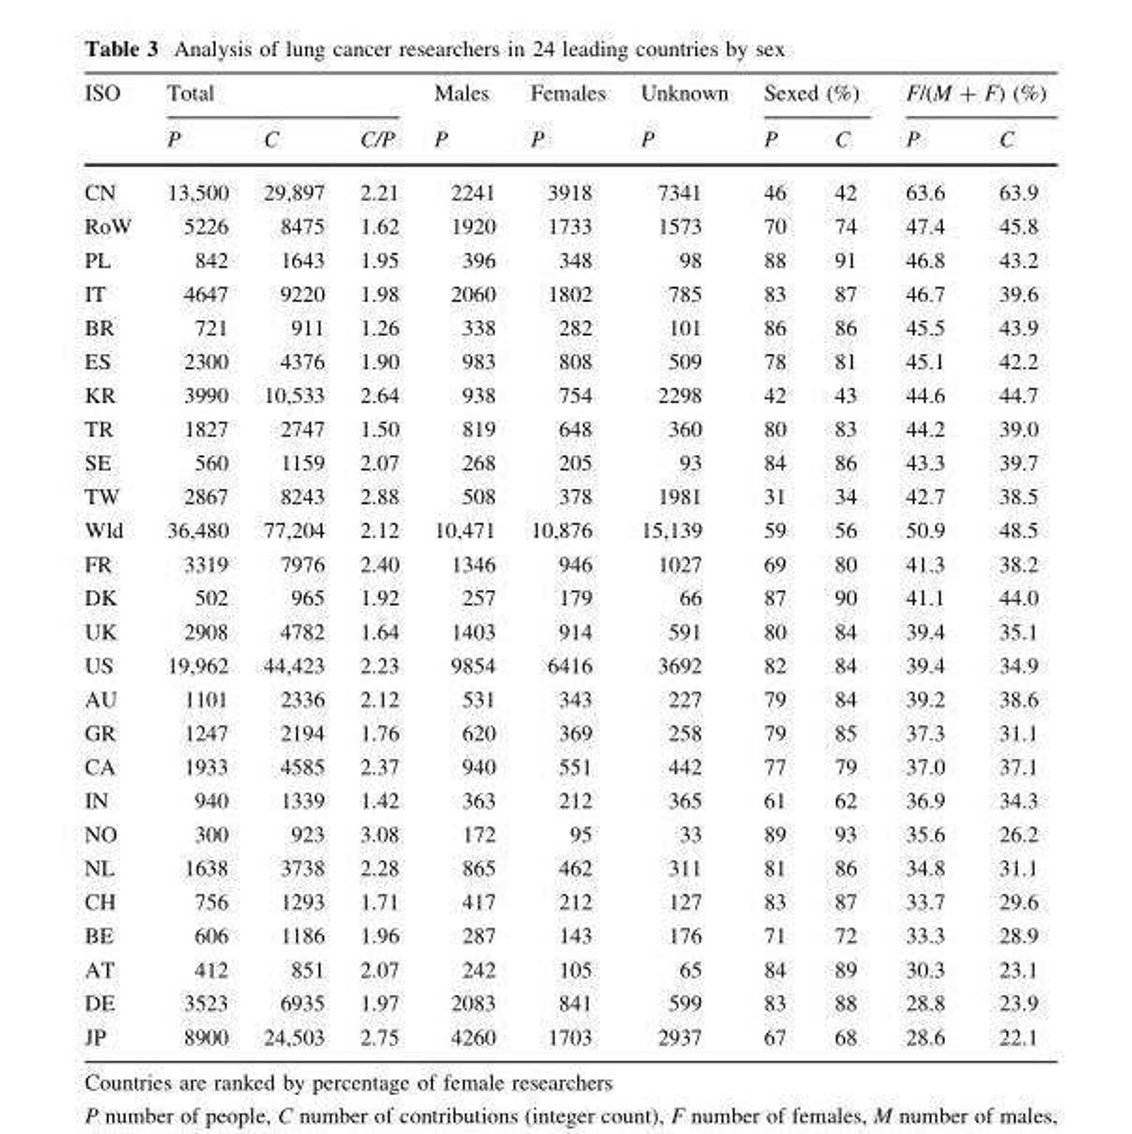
<table><thead><tr><td rowspan="2">ISO</td><td colspan="3">Total</td><td rowspan="2">Males P</td><td rowspan="2">Females P</td><td rowspan="2">Unknown P</td><td colspan="2">Sexed (%)</td><td colspan="2">F/(M + F) (%)</td></tr><tr><td>P</td><td>C</td><td>C/P</td><td>P</td><td>C</td><td>P</td><td>C</td></tr></thead><tbody><tr><td>CN</td><td>13,500</td><td>29,897</td><td>2.21</td><td>2241</td><td>3918</td><td>7341</td><td>46</td><td>42</td><td>63.6</td><td>63.9</td></tr><tr><td>RoW</td><td>5226</td><td>8475</td><td>1.62</td><td>1920</td><td>1733</td><td>1573</td><td>70</td><td>74</td><td>47.4</td><td>45.8</td></tr><tr><td>PL</td><td>842</td><td>1643</td><td>1.95</td><td>396</td><td>348</td><td>98</td><td>88</td><td>91</td><td>46.8</td><td>43.2</td></tr><tr><td>IT</td><td>4647</td><td>9220</td><td>1.98</td><td>2060</td><td>1802</td><td>785</td><td>83</td><td>87</td><td>46.7</td><td>39.6</td></tr><tr><td>BR</td><td>721</td><td>911</td><td>1.26</td><td>338</td><td>282</td><td>101</td><td>86</td><td>86</td><td>45.5</td><td>43.9</td></tr><tr><td>ES</td><td>2300</td><td>4376</td><td>1.90</td><td>983</td><td>808</td><td>509</td><td>78</td><td>81</td><td>45.1</td><td>42.2</td></tr><tr><td>KR</td><td>3990</td><td>10,533</td><td>2.64</td><td>938</td><td>754</td><td>2298</td><td>42</td><td>43</td><td>44.6</td><td>44.7</td></tr><tr><td>TR</td><td>1827</td><td>2747</td><td>1.50</td><td>819</td><td>648</td><td>360</td><td>80</td><td>83</td><td>44.2</td><td>39.0</td></tr><tr><td>SE</td><td>560</td><td>1159</td><td>2.07</td><td>268</td><td>205</td><td>93</td><td>84</td><td>86</td><td>43.3</td><td>39.7</td></tr><tr><td>TW</td><td>2867</td><td>8243</td><td>2.88</td><td>508</td><td>378</td><td>1981</td><td>31</td><td>34</td><td>42.7</td><td>38.5</td></tr><tr><td>Wld</td><td>36,480</td><td>77,204</td><td>2.12</td><td>10,471</td><td>10,876</td><td>15,139</td><td>59</td><td>56</td><td>50.9</td><td>48.5</td></tr><tr><td>FR</td><td>3319</td><td>7976</td><td>2.40</td><td>1346</td><td>946</td><td>1027</td><td>69</td><td>80</td><td>41.3</td><td>38.2</td></tr><tr><td>DK</td><td>502</td><td>965</td><td>1.92</td><td>257</td><td>179</td><td>66</td><td>87</td><td>90</td><td>41.1</td><td>44.0</td></tr><tr><td>UK</td><td>2908</td><td>4782</td><td>1.64</td><td>1403</td><td>914</td><td>591</td><td>80</td><td>84</td><td>39.4</td><td>35.1</td></tr><tr><td>US</td><td>19,962</td><td>44,423</td><td>2.23</td><td>9854</td><td>6416</td><td>3692</td><td>82</td><td>84</td><td>39.4</td><td>34.9</td></tr><tr><td>AU</td><td>1101</td><td>2336</td><td>2.12</td><td>531</td><td>343</td><td>227</td><td>79</td><td>84</td><td>39.2</td><td>38.6</td></tr><tr><td>GR</td><td>1247</td><td>2194</td><td>1.76</td><td>620</td><td>369</td><td>258</td><td>79</td><td>85</td><td>37.3</td><td>31.1</td></tr><tr><td>CA</td><td>1933</td><td>4585</td><td>2.37</td><td>940</td><td>551</td><td>442</td><td>77</td><td>79</td><td>37.0</td><td>37.1</td></tr><tr><td>IN</td><td>940</td><td>1339</td><td>1.42</td><td>363</td><td>212</td><td>365</td><td>61</td><td>62</td><td>36.9</td><td>34.3</td></tr><tr><td>NO</td><td>300</td><td>923</td><td>3.08</td><td>172</td><td>95</td><td>33</td><td>89</td><td>93</td><td>35.6</td><td>26.2</td></tr><tr><td>NL</td><td>1638</td><td>3738</td><td>2.28</td><td>865</td><td>462</td><td>311</td><td>81</td><td>86</td><td>34.8</td><td>31.1</td></tr><tr><td>CH</td><td>756</td><td>1293</td><td>1.71</td><td>417</td><td>212</td><td>127</td><td>83</td><td>87</td><td>33.7</td><td>29.6</td></tr><tr><td>BE</td><td>606</td><td>1186</td><td>1.96</td><td>287</td><td>143</td><td>176</td><td>71</td><td>72</td><td>33.3</td><td>28.9</td></tr><tr><td>AT</td><td>412</td><td>851</td><td>2.07</td><td>242</td><td>105</td><td>65</td><td>84</td><td>89</td><td>30.3</td><td>23.1</td></tr><tr><td>DE</td><td>3523</td><td>6935</td><td>1.97</td><td>2083</td><td>841</td><td>599</td><td>83</td><td>88</td><td>28.8</td><td>23.9</td></tr><tr><td>JP</td><td>8900</td><td>24,503</td><td>2.75</td><td>4260</td><td>1703</td><td>2937</td><td>67</td><td>68</td><td>28.6</td><td>22.1</td></tr></tbody></table>